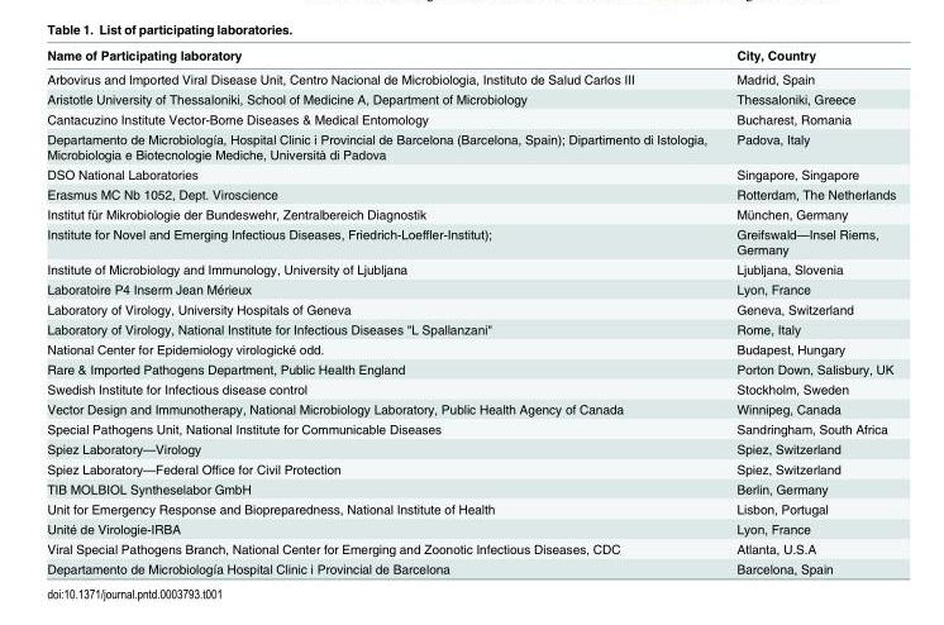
<table><thead><tr><td>Name of Participating laboratory</td><td>City, Country</td></tr></thead><tbody><tr><td>Arbovirus and Imported Viral Disease Unit, Centro Nacional de Microbiologia, Instituto de Salud Carlos III</td><td>Madrid, Spain</td></tr><tr><td>Aristotle University of Thessaloniki, School of Medicine A, Department of Microbiology</td><td>Thessaloniki, Greece</td></tr><tr><td>Cantacuzino Institute Vector-Borne Diseases &amp; Medical Entomology</td><td>Bucharest, Romania</td></tr><tr><td>Departamento de Microbiología, Hospital Clinic i Provincial de Barcelona (Barcelona, Spain); Dipartimento di Istologia, Microbiologia e Biotecnologie Mediche, Università di Padova</td><td>Padova, Italy</td></tr><tr><td>DSO National Laboratories</td><td>Singapore, Singapore</td></tr><tr><td>Erasmus MC Nb 1052, Dept. Viroscience</td><td>Rotterdam, The Netherlands</td></tr><tr><td>Institut für Mikrobiologie der Bundeswehr, Zentralbereich Diagnostik</td><td>München, Germany</td></tr><tr><td>Institute for Novel and Emerging Infectious Diseases, Friedrich-Loeffler-Institut);</td><td>Greifswald—Insel Riems, Germany</td></tr><tr><td>Institute of Microbiology and Immunology, University of Ljubljana</td><td>Ljubljana, Slovenia</td></tr><tr><td>Laboratoire P4 Inserm Jean Mérieux</td><td>Lyon, France</td></tr><tr><td>Laboratory of Virology, University Hospitals of Geneva</td><td>Geneva, Switzerland</td></tr><tr><td>Laboratory of Virology, National Institute for Infectious Diseases &quot;L Spallanzani&quot;</td><td>Rome, Italy</td></tr><tr><td>National Center for Epidemiology virologické odd.</td><td>Budapest, Hungary</td></tr><tr><td>Rare &amp; Imported Pathogens Department, Public Health England</td><td>Porton Down, Salisbury, UK</td></tr><tr><td>Swedish Institute for Infectious disease control</td><td>Stockholm, Sweden</td></tr><tr><td>Vector Design and Immunotherapy, National Microbiology Laboratory, Public Health Agency of Canada</td><td>Winnipeg, Canada</td></tr><tr><td>Special Pathogens Unit, National Institute for Communicable Diseases</td><td>Sandringham, South Africa</td></tr><tr><td>Spiez Laboratory—Virology</td><td>Spiez, Switzerland</td></tr><tr><td>Spiez Laboratory—Federal Office for Civil Protection</td><td>Spiez, Switzerland</td></tr><tr><td>TIB MOLBIOL Syntheselabor GmbH</td><td>Berlin, Germany</td></tr><tr><td>Unit for Emergency Response and Biopreparedness, National Institute of Health</td><td>Lisbon, Portugal</td></tr><tr><td>Unité de Virologie-IRBA</td><td>Lyon, France</td></tr><tr><td>Viral Special Pathogens Branch, National Center for Emerging and Zoonotic Infectious Diseases, CDC</td><td>Atlanta, U.S.A</td></tr><tr><td>Departamento de Microbiología Hospital Clinic i Provincial de Barcelona</td><td>Barcelona, Spain</td></tr></tbody></table>